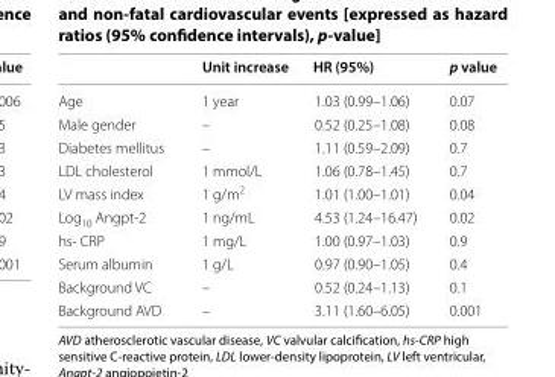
<table><thead><tr><td></td><td>Unit increase</td><td>HR (95%)</td><td>p value</td></tr></thead><tbody><tr><td>Age</td><td>1 year</td><td>1.03 (0.99–1.06)</td><td>0.07</td></tr><tr><td>Male gender</td><td>–</td><td>0.52 (0.25–1.08)</td><td>0.08</td></tr><tr><td>Diabetes mellitus</td><td>–</td><td>1.11 (0.59–2.09)</td><td>0.7</td></tr><tr><td>LDL cholesterol</td><td>1 mmol/L</td><td>1.06 (0.78–1.45)</td><td>0.7</td></tr><tr><td>LV mass index</td><td>1 g/m<sup>2</sup></td><td>1.01 (1.00–1.01)</td><td>0.04</td></tr><tr><td>Log<sub>10</sub> Angpt-2</td><td>1 ng/mL</td><td>4.53 (1.24–16.47)</td><td>0.02</td></tr><tr><td>hs- CRP</td><td>1 mg/L</td><td>1.00 (0.97–1.03)</td><td>0.9</td></tr><tr><td>Serum albumin</td><td>1 g/L</td><td>0.97 (0.90–1.05)</td><td>0.4</td></tr><tr><td>Background VC</td><td>–</td><td>0.52 (0.24–1.13)</td><td>0.1</td></tr><tr><td>Background AVD</td><td>–</td><td>3.11 (1.60–6.05)</td><td>0.001</td></tr></tbody></table>